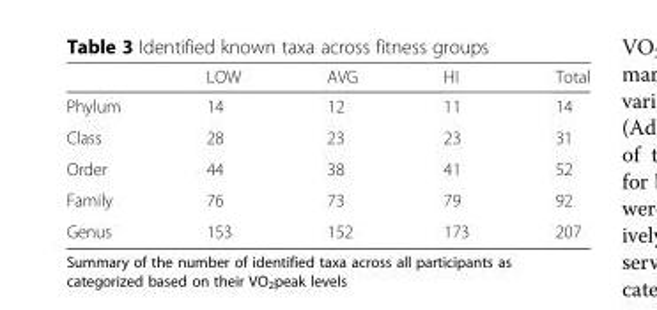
<table><thead><tr><td></td><td>LOW</td><td>AVG</td><td>HI</td><td>Total</td></tr></thead><tbody><tr><td>Phylum</td><td>14</td><td>12</td><td>11</td><td>14</td></tr><tr><td>Class</td><td>28</td><td>23</td><td>23</td><td>31</td></tr><tr><td>Order</td><td>44</td><td>38</td><td>41</td><td>52</td></tr><tr><td>Family</td><td>76</td><td>73</td><td>79</td><td>92</td></tr><tr><td>Genus</td><td>153</td><td>152</td><td>173</td><td>207</td></tr></tbody></table>